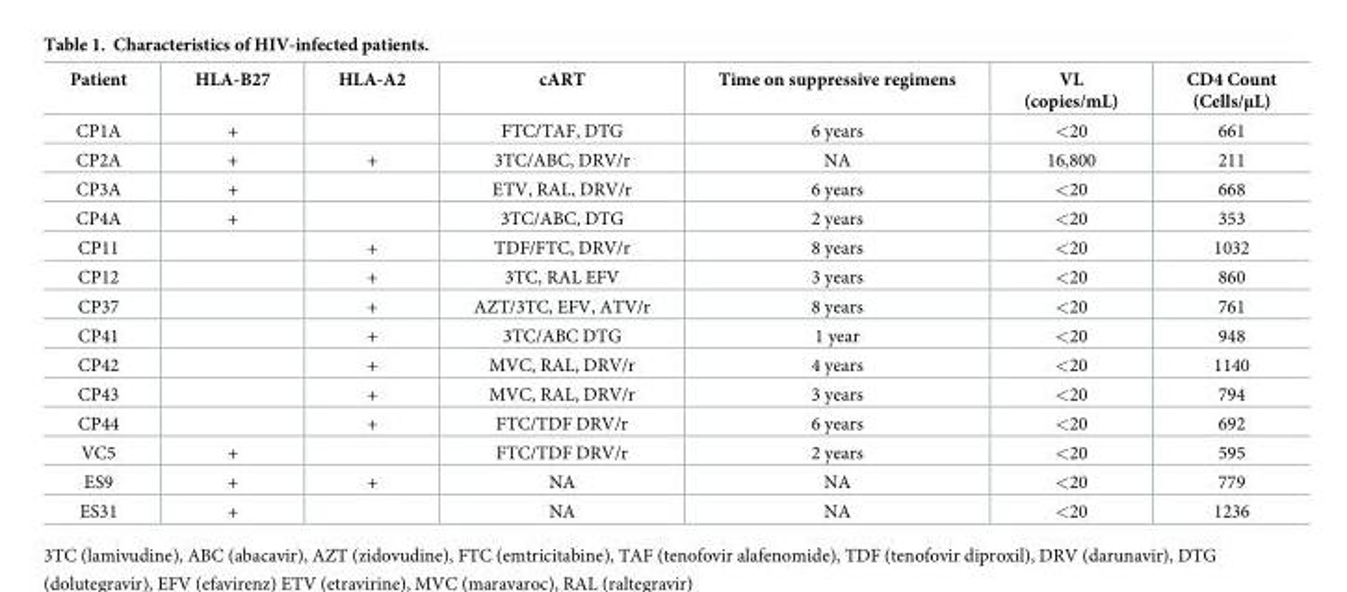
<table><thead><tr><td>Patient</td><td>HLA-B27</td><td>HLA-A2</td><td>cART</td><td>Time on suppressive regimens</td><td>VL (copies/mL)</td><td>CD4 Count (Cells/μL)</td></tr></thead><tbody><tr><td>CP1A</td><td>+</td><td></td><td>FTC/TAF, DTG</td><td>6 years</td><td>&lt;20</td><td>661</td></tr><tr><td>CP2A</td><td>+</td><td>+</td><td>3TC/ABC, DRV/r</td><td>NA</td><td>16,800</td><td>211</td></tr><tr><td>CP3A</td><td>+</td><td></td><td>ETV, RAL, DRV/r</td><td>6 years</td><td>&lt;20</td><td>668</td></tr><tr><td>CP4A</td><td>+</td><td></td><td>3TC/ABC, DTG</td><td>2 years</td><td>&lt;20</td><td>353</td></tr><tr><td>CP11</td><td></td><td>+</td><td>TDF/FTC, DRV/r</td><td>8 years</td><td>&lt;20</td><td>1032</td></tr><tr><td>CP12</td><td></td><td>+</td><td>3TC, RAL EFV</td><td>3 years</td><td>&lt;20</td><td>860</td></tr><tr><td>CP37</td><td></td><td>+</td><td>AZT/3TC, EFV, ATV/r</td><td>8 years</td><td>&lt;20</td><td>761</td></tr><tr><td>CP41</td><td></td><td>+</td><td>3TC/ABC DTG</td><td>1 year</td><td>&lt;20</td><td>948</td></tr><tr><td>CP42</td><td></td><td>+</td><td>MVC, RAL, DRV/r</td><td>4 years</td><td>&lt;20</td><td>1140</td></tr><tr><td>CP43</td><td></td><td>+</td><td>MVC, RAL, DRV/r</td><td>3 years</td><td>&lt;20</td><td>794</td></tr><tr><td>CP44</td><td></td><td>+</td><td>FTC/TDF DRV/r</td><td>6 years</td><td>&lt;20</td><td>692</td></tr><tr><td>VC5</td><td>+</td><td></td><td>FTC/TDF DRV/r</td><td>2 years</td><td>&lt;20</td><td>595</td></tr><tr><td>ES9</td><td>+</td><td>+</td><td>NA</td><td>NA</td><td>&lt;20</td><td>779</td></tr><tr><td>ES31</td><td>+</td><td></td><td>NA</td><td>NA</td><td>&lt;20</td><td>1236</td></tr></tbody></table>